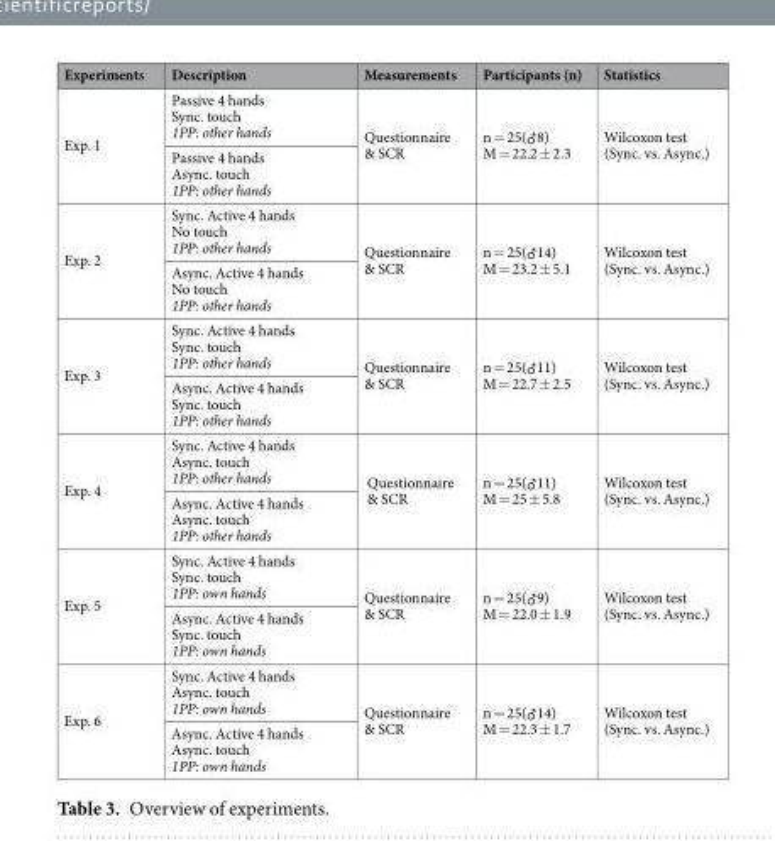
<table><thead><tr><td>Experiments</td><td>Description</td><td>Measurements</td><td>Participants (n)</td><td>Statistics</td></tr></thead><tbody><tr><td rowspan="2">Exp. 1</td><td>Passive 4 hands Sync. touch 1PP: other hands</td><td rowspan="2">Questionnaire &amp; SCR</td><td rowspan="2">n = 25(♂8) M = 22.2 ± 2.3</td><td rowspan="2">Wilcoxon test (Sync. vs. Async.)</td></tr><tr><td>Passive 4 hands Async. touch 1PP: other hands</td></tr><tr><td rowspan="2">Exp. 2</td><td>Sync. Active 4 hands No touch 1PP: other hands</td><td rowspan="2">Questionnaire &amp; SCR</td><td rowspan="2">n = 25(♂14) M = 23.2 ± 5.1</td><td rowspan="2">Wilcoxon test (Sync. vs. Async.)</td></tr><tr><td>Async. Active 4 hands No touch 1PP: other hands</td></tr><tr><td rowspan="2">Exp. 3</td><td>Sync. Active 4 hands Sync. touch 1PP: other hands</td><td rowspan="2">Questionnaire &amp; SCR</td><td rowspan="2">n = 25(♂11) M = 22.7 ± 2.5</td><td rowspan="2">Wilcoxon test (Sync. vs. Async.)</td></tr><tr><td>Async. Active 4 hands Sync. touch 1PP: other hands</td></tr><tr><td rowspan="2">Exp. 4</td><td>Sync. Active 4 hands Async. touch 1PP: other hands</td><td rowspan="2">Questionnaire &amp; SCR</td><td rowspan="2">n = 25(♂11) M = 25 ± 5.8</td><td rowspan="2">Wilcoxon test (Sync. vs. Async.)</td></tr><tr><td>Async. Active 4 hands Async. touch 1PP: other hands</td></tr><tr><td rowspan="2">Exp. 5</td><td>Sync. Active 4 hands Sync. touch 1PP: own hands</td><td rowspan="2">Questionnaire &amp; SCR</td><td rowspan="2">n = 25(♂9) M = 22.0 ± 1.9</td><td rowspan="2">Wilcoxon test (Sync. vs. Async.)</td></tr><tr><td>Async. Active 4 hands Sync. touch 1PP: own hands</td></tr><tr><td rowspan="2">Exp. 6</td><td>Sync. Active 4 hands Async. touch 1PP: own hands</td><td rowspan="2">Questionnaire &amp; SCR</td><td rowspan="2">n = 25(♂14) M = 22.3 ± 1.7</td><td rowspan="2">Wilcoxon test (Sync. vs. Async.)</td></tr><tr><td>Async. Active 4 hands Async. touch 1PP: own hands</td></tr></tbody></table>